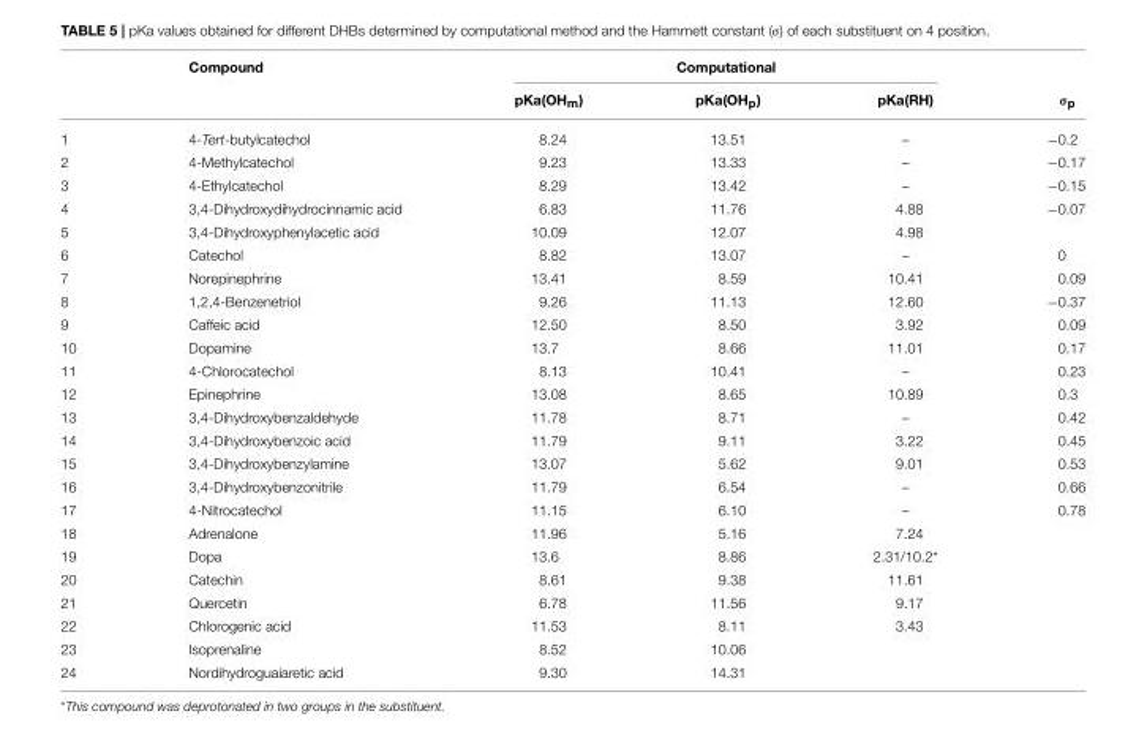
<table><thead><tr><td rowspan="2"></td><td rowspan="2">Compound</td><td colspan="3">Computational</td><td rowspan="2">σ<sub>p</sub></td></tr><tr><td>pKa(OH<sub>m</sub>)</td><td>pKa(OH<sub>p</sub>)</td><td>pKa(RH)</td></tr></thead><tbody><tr><td>1</td><td>4-Tert-butylcatechol</td><td>8.24</td><td>13.51</td><td>–</td><td>−0.2</td></tr><tr><td>2</td><td>4-Methylcatechol</td><td>9.23</td><td>13.33</td><td>–</td><td>−0.17</td></tr><tr><td>3</td><td>4-Ethylcatechol</td><td>8.29</td><td>13.42</td><td>–</td><td>−0.15</td></tr><tr><td>4</td><td>3,4-Dihydroxydihydrocinnamic acid</td><td>6.83</td><td>11.76</td><td>4.88</td><td>−0.07</td></tr><tr><td>5</td><td>3,4-Dihydroxyphenylacetic acid</td><td>10.09</td><td>12.07</td><td>4.98</td><td></td></tr><tr><td>6</td><td>Catechol</td><td>8.82</td><td>13.07</td><td>–</td><td>0</td></tr><tr><td>7</td><td>Norepinephrine</td><td>13.41</td><td>8.59</td><td>10.41</td><td>0.09</td></tr><tr><td>8</td><td>1,2,4-Benzenetriol</td><td>9.26</td><td>11.13</td><td>12.60</td><td>−0.37</td></tr><tr><td>9</td><td>Caffeic acid</td><td>12.50</td><td>8.50</td><td>3.92</td><td>0.09</td></tr><tr><td>10</td><td>Dopamine</td><td>13.7</td><td>8.66</td><td>11.01</td><td>0.17</td></tr><tr><td>11</td><td>4-Chlorocatechol</td><td>8.13</td><td>10.41</td><td>–</td><td>0.23</td></tr><tr><td>12</td><td>Epinephrine</td><td>13.08</td><td>8.65</td><td>10.89</td><td>0.3</td></tr><tr><td>13</td><td>3,4-Dihydroxybenzaldehyde</td><td>11.78</td><td>8.71</td><td>–</td><td>0.42</td></tr><tr><td>14</td><td>3,4-Dihydroxybenzoic acid</td><td>11.79</td><td>9.11</td><td>3.22</td><td>0.45</td></tr><tr><td>15</td><td>3,4-Dihydroxybenzylamine</td><td>13.07</td><td>5.62</td><td>9.01</td><td>0.53</td></tr><tr><td>16</td><td>3,4-Dihydroxybenzonitrile</td><td>11.79</td><td>6.54</td><td>–</td><td>0.66</td></tr><tr><td>17</td><td>4-Nitrocatechol</td><td>11.15</td><td>6.10</td><td>–</td><td>0.78</td></tr><tr><td>18</td><td>Adrenalone</td><td>11.96</td><td>5.16</td><td>7.24</td><td></td></tr><tr><td>19</td><td>Dopa</td><td>13.6</td><td>8.86</td><td>2.31/10.2*</td><td></td></tr><tr><td>20</td><td>Catechin</td><td>8.61</td><td>9.38</td><td>11.61</td><td></td></tr><tr><td>21</td><td>Quercetin</td><td>6.78</td><td>11.56</td><td>9.17</td><td></td></tr><tr><td>22</td><td>Chlorogenic acid</td><td>11.53</td><td>8.11</td><td>3.43</td><td></td></tr><tr><td>23</td><td>Isoprenaline</td><td>8.52</td><td>10.06</td><td></td><td></td></tr><tr><td>24</td><td>Nordihydroguaiaretic acid</td><td>9.30</td><td>14.31</td><td></td><td></td></tr></tbody></table>